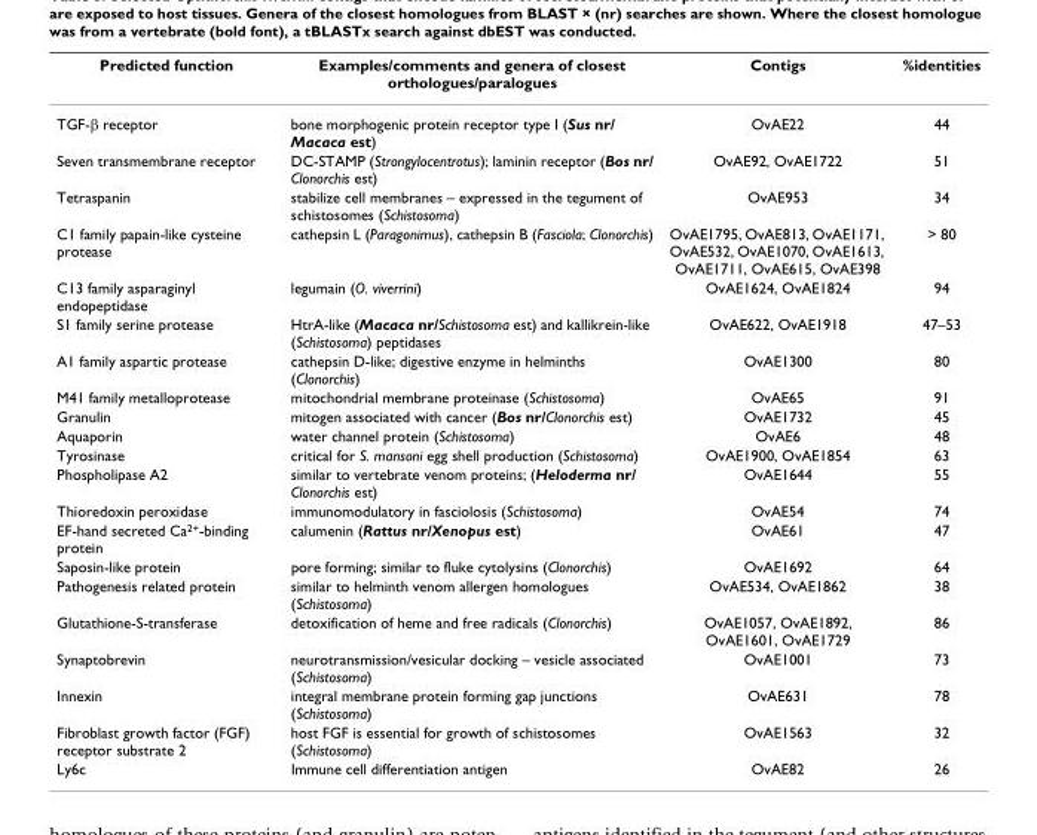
<table><thead><tr><td>Predicted function</td><td>Examples/comments and genera of closest orthologues/paralogues</td><td>Contigs</td><td>%identities</td></tr></thead><tbody><tr><td>TGF-β receptor</td><td>bone morphogenic protein receptor type I (Sus nr/ Macaca est)</td><td>OvAE22</td><td>44</td></tr><tr><td>Seven transmembrane receptor</td><td>DC-STAMP (Strongylocentrotus); laminin receptor (Bos nr/ Clonorchis est)</td><td>OvAE92, OvAE1722</td><td>51</td></tr><tr><td>Tetraspanin</td><td>stabilize cell membranes – expressed in the tegument of schistosomes (Schistosoma)</td><td>OvAE953</td><td>34</td></tr><tr><td>C1 family papain-like cysteine protease</td><td>cathepsin L (Paragonimus), cathepsin B (Fasciola; Clonorchis)</td><td>OvAE1795, OvAE813, OvAE1171, OvAE532, OvAE1070, OvAE1613, OvAE1711, OvAE615, OvAE398</td><td>&gt; 80</td></tr><tr><td>C13 family asparaginyl endopeptidase</td><td>legumain (O. viverrini)</td><td>OvAE1624, OvAE1824</td><td>94</td></tr><tr><td>S1 family serine protease</td><td>HtrA-like (Macaca nr/Schistosoma est) and kallikrein-like (Schistosoma) peptidases</td><td>OvAE622, OvAE1918</td><td>47–53</td></tr><tr><td>A1 family aspartic protease</td><td>cathepsin D-like; digestive enzyme in helminths (Clonorchis)</td><td>OvAE1300</td><td>80</td></tr><tr><td>M41 family metalloprotease</td><td>mitochondrial membrane proteinase (Schistosoma)</td><td>OvAE65</td><td>91</td></tr><tr><td>Granulin</td><td>mitogen associated with cancer (Bos nr/Clonorchis est)</td><td>OvAE1732</td><td>45</td></tr><tr><td>Aquaporin</td><td>water channel protein (Schistosoma)</td><td>OvAE6</td><td>48</td></tr><tr><td>Tyrosinase</td><td>critical for S. mansoni egg shell production (Schistosoma)</td><td>OvAE1900, OvAE1854</td><td>63</td></tr><tr><td>Phospholipase A2</td><td>similar to vertebrate venom proteins; (Heloderma nr/ Clonorchis est)</td><td>OvAE1644</td><td>55</td></tr><tr><td>Thioredoxin peroxidase</td><td>immunomodulatory in fasciolosis (Schistosoma)</td><td>OvAE54</td><td>74</td></tr><tr><td>EF-hand secreted Ca<sup>2+</sup>-binding protein</td><td>calumenin (Rattus nr/Xenopus est)</td><td>OvAE61</td><td>47</td></tr><tr><td>Saposin-like protein</td><td>pore forming; similar to fluke cytolysins (Clonorchis)</td><td>OvAE1692</td><td>64</td></tr><tr><td>Pathogenesis related protein</td><td>similar to helminth venom allergen homologues (Schistosoma)</td><td>OvAE534, OvAE1862</td><td>38</td></tr><tr><td>Glutathione-S-transferase</td><td>detoxification of heme and free radicals (Clonorchis)</td><td>OvAE1057, OvAE1892, OvAE1601, OvAE1729</td><td>86</td></tr><tr><td>Synaptobrevin</td><td>neurotransmission/vesicular docking – vesicle associated (Schistosoma)</td><td>OvAE1001</td><td>73</td></tr><tr><td>Innexin</td><td>integral membrane protein forming gap junctions (Schistosoma)</td><td>OvAE631</td><td>78</td></tr><tr><td>Fibroblast growth factor (FGF) receptor substrate 2</td><td>host FGF is essential for growth of schistosomes (Schistosoma)</td><td>OvAE1563</td><td>32</td></tr><tr><td>Ly6c</td><td>Immune cell differentiation antigen</td><td>OvAE82</td><td>26</td></tr></tbody></table>